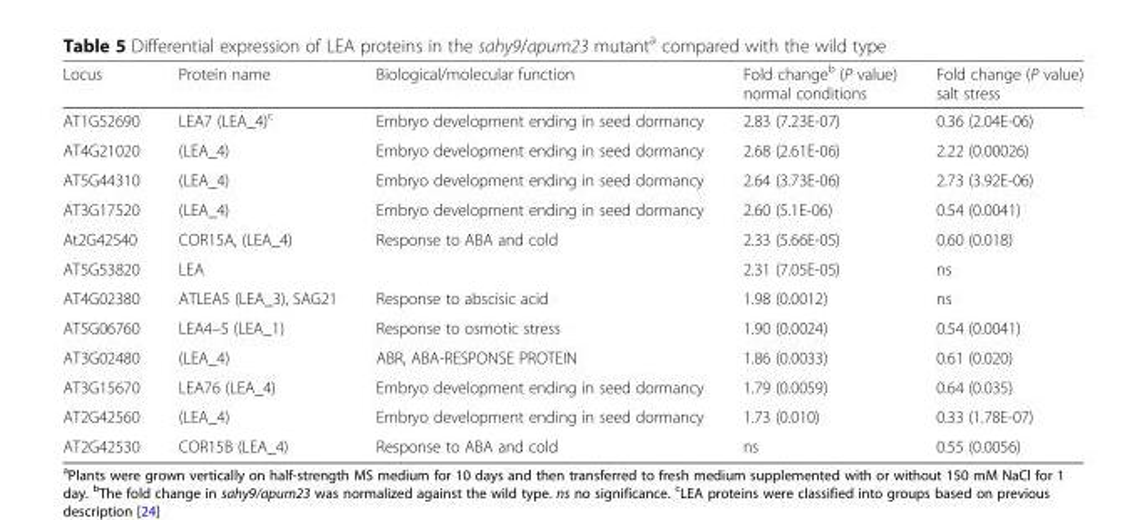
<table><thead><tr><td>Locus</td><td>Protein name</td><td>Biological/molecular function</td><td>Fold change<sup>b</sup> (P value) normal conditions</td><td>Fold change (P value) salt stress</td></tr></thead><tbody><tr><td>AT1G52690</td><td>LEA7 (LEA_4)<sup>c</sup></td><td>Embryo development ending in seed dormancy</td><td>2.83 (7.23E-07)</td><td>0.36 (2.04E-06)</td></tr><tr><td>AT4G21020</td><td>(LEA_4)</td><td>Embryo development ending in seed dormancy</td><td>2.68 (2.61E-06)</td><td>2.22 (0.00026)</td></tr><tr><td>AT5G44310</td><td>(LEA_4)</td><td>Embryo development ending in seed dormancy</td><td>2.64 (3.73E-06)</td><td>2.73 (3.92E-06)</td></tr><tr><td>AT3G17520</td><td>(LEA_4)</td><td>Embryo development ending in seed dormancy</td><td>2.60 (5.1E-06)</td><td>0.54 (0.0041)</td></tr><tr><td>At2G42540</td><td>COR15A, (LEA_4)</td><td>Response to ABA and cold</td><td>2.33 (5.66E-05)</td><td>0.60 (0.018)</td></tr><tr><td>AT5G53820</td><td>LEA</td><td></td><td>2.31 (7.05E-05)</td><td>ns</td></tr><tr><td>AT4G02380</td><td>ATLEA5 (LEA_3), SAG21</td><td>Response to abscisic acid</td><td>1.98 (0.0012)</td><td>ns</td></tr><tr><td>AT5G06760</td><td>LEA4–5 (LEA_1)</td><td>Response to osmotic stress</td><td>1.90 (0.0024)</td><td>0.54 (0.0041)</td></tr><tr><td>AT3G02480</td><td>(LEA_4)</td><td>ABR, ABA-RESPONSE PROTEIN</td><td>1.86 (0.0033)</td><td>0.61 (0.020)</td></tr><tr><td>AT3G15670</td><td>LEA76 (LEA_4)</td><td>Embryo development ending in seed dormancy</td><td>1.79 (0.0059)</td><td>0.64 (0.035)</td></tr><tr><td>AT2G42560</td><td>(LEA_4)</td><td>Embryo development ending in seed dormancy</td><td>1.73 (0.010)</td><td>0.33 (1.78E-07)</td></tr><tr><td>AT2G42530</td><td>COR15B (LEA_4)</td><td>Response to ABA and cold</td><td>ns</td><td>0.55 (0.0056)</td></tr></tbody></table>